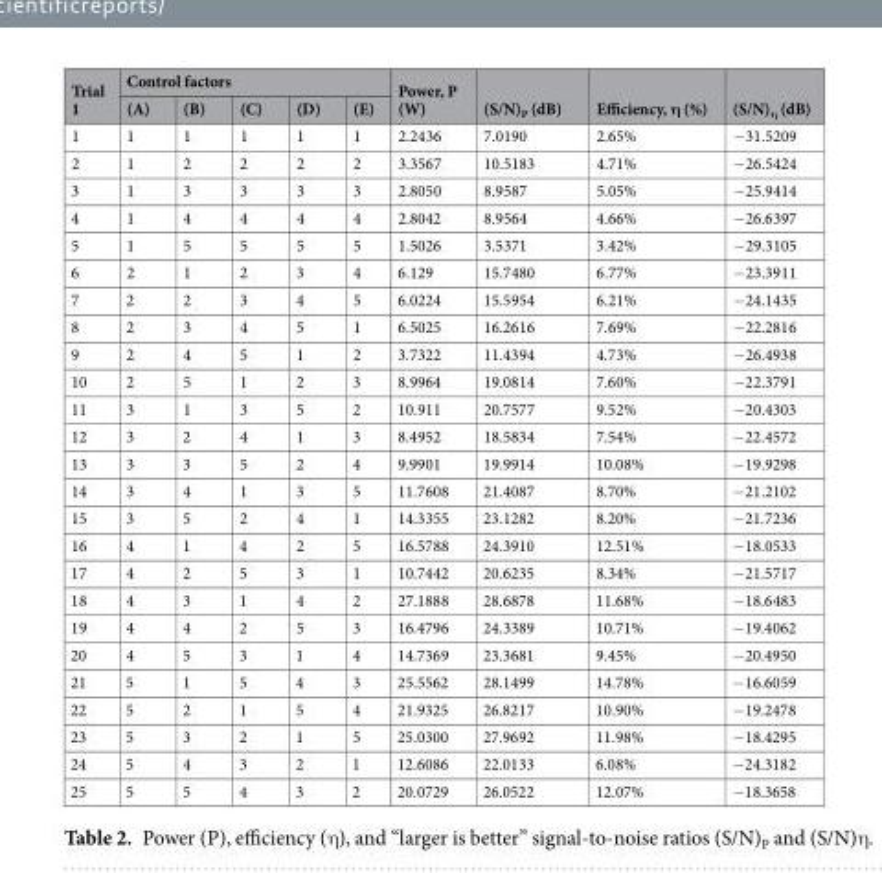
<table><thead><tr><td rowspan="2">Trial 1</td><td colspan="5">Control factors</td><td rowspan="2">Power, P (W)</td><td rowspan="2">(S/N)<sub>P</sub> (dB)</td><td rowspan="2">Efficiency, η (%)</td><td rowspan="2">(S/N)<sub>η</sub> (dB)</td></tr><tr><td>(A)</td><td>(B)</td><td>(C)</td><td>(D)</td><td>(E)</td></tr></thead><tbody><tr><td>1</td><td>1</td><td>1</td><td>1</td><td>1</td><td>1</td><td>2.2436</td><td>7.0190</td><td>2.65%</td><td>−31.5209</td></tr><tr><td>2</td><td>1</td><td>2</td><td>2</td><td>2</td><td>2</td><td>3.3567</td><td>10.5183</td><td>4.71%</td><td>−26.5424</td></tr><tr><td>3</td><td>1</td><td>3</td><td>3</td><td>3</td><td>3</td><td>2.8050</td><td>8.9587</td><td>5.05%</td><td>−25.9414</td></tr><tr><td>4</td><td>1</td><td>4</td><td>4</td><td>4</td><td>4</td><td>2.8042</td><td>8.9564</td><td>4.66%</td><td>−26.6397</td></tr><tr><td>5</td><td>1</td><td>5</td><td>5</td><td>5</td><td>5</td><td>1.5026</td><td>3.5371</td><td>3.42%</td><td>−29.3105</td></tr><tr><td>6</td><td>2</td><td>1</td><td>2</td><td>3</td><td>4</td><td>6.129</td><td>15.7480</td><td>6.77%</td><td>−23.3911</td></tr><tr><td>7</td><td>2</td><td>2</td><td>3</td><td>4</td><td>5</td><td>6.0224</td><td>15.5954</td><td>6.21%</td><td>−24.1435</td></tr><tr><td>8</td><td>2</td><td>3</td><td>4</td><td>5</td><td>1</td><td>6.5025</td><td>16.2616</td><td>7.69%</td><td>−22.2816</td></tr><tr><td>9</td><td>2</td><td>4</td><td>5</td><td>1</td><td>2</td><td>3.7322</td><td>11.4394</td><td>4.73%</td><td>−26.4938</td></tr><tr><td>10</td><td>2</td><td>5</td><td>1</td><td>2</td><td>3</td><td>8.9964</td><td>19.0814</td><td>7.60%</td><td>−22.3791</td></tr><tr><td>11</td><td>3</td><td>1</td><td>3</td><td>5</td><td>2</td><td>10.911</td><td>20.7577</td><td>9.52%</td><td>−20.4303</td></tr><tr><td>12</td><td>3</td><td>2</td><td>4</td><td>1</td><td>3</td><td>8.4952</td><td>18.5834</td><td>7.54%</td><td>−22.4572</td></tr><tr><td>13</td><td>3</td><td>3</td><td>5</td><td>2</td><td>4</td><td>9.9901</td><td>19.9914</td><td>10.08%</td><td>−19.9298</td></tr><tr><td>14</td><td>3</td><td>4</td><td>1</td><td>3</td><td>5</td><td>11.7608</td><td>21.4087</td><td>8.70%</td><td>−21.2102</td></tr><tr><td>15</td><td>3</td><td>5</td><td>2</td><td>4</td><td>1</td><td>14.3355</td><td>23.1282</td><td>8.20%</td><td>−21.7236</td></tr><tr><td>16</td><td>4</td><td>1</td><td>4</td><td>2</td><td>5</td><td>16.5788</td><td>24.3910</td><td>12.51%</td><td>−18.0533</td></tr><tr><td>17</td><td>4</td><td>2</td><td>5</td><td>3</td><td>1</td><td>10.7442</td><td>20.6235</td><td>8.34%</td><td>−21.5717</td></tr><tr><td>18</td><td>4</td><td>3</td><td>1</td><td>4</td><td>2</td><td>27.1888</td><td>28.6878</td><td>11.68%</td><td>−18.6483</td></tr><tr><td>19</td><td>4</td><td>4</td><td>2</td><td>5</td><td>3</td><td>16.4796</td><td>24.3389</td><td>10.71%</td><td>−19.4062</td></tr><tr><td>20</td><td>4</td><td>5</td><td>3</td><td>1</td><td>4</td><td>14.7369</td><td>23.3681</td><td>9.45%</td><td>−20.4950</td></tr><tr><td>21</td><td>5</td><td>1</td><td>5</td><td>4</td><td>3</td><td>25.5562</td><td>28.1499</td><td>14.78%</td><td>−16.6059</td></tr><tr><td>22</td><td>5</td><td>2</td><td>1</td><td>5</td><td>4</td><td>21.9325</td><td>26.8217</td><td>10.90%</td><td>−19.2478</td></tr><tr><td>23</td><td>5</td><td>3</td><td>2</td><td>1</td><td>5</td><td>25.0300</td><td>27.9692</td><td>11.98%</td><td>−18.4295</td></tr><tr><td>24</td><td>5</td><td>4</td><td>3</td><td>2</td><td>1</td><td>12.6086</td><td>22.0133</td><td>6.08%</td><td>−24.3182</td></tr><tr><td>25</td><td>5</td><td>5</td><td>4</td><td>3</td><td>2</td><td>20.0729</td><td>26.0522</td><td>12.07%</td><td>−18.3658</td></tr></tbody></table>